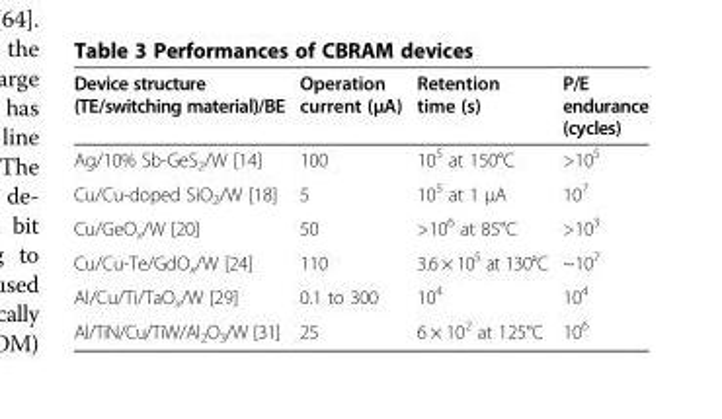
<table><thead><tr><td>Device structure (TE/switching material)/BE</td><td>Operation current (μA)</td><td>Retention time (s)</td><td>P/E endurance (cycles)</td></tr></thead><tbody><tr><td>Ag/10% Sb-GeS<sub>2</sub>/W [14]</td><td>100</td><td>10<sup>5</sup> at 150°C</td><td>&gt;10<sup>5</sup></td></tr><tr><td>Cu/Cu-doped SiO<sub>2</sub>/W [18]</td><td>5</td><td>10<sup>5</sup> at 1 μA</td><td>10<sup>7</sup></td></tr><tr><td>Cu/GeO<sub>x</sub>/W [20]</td><td>50</td><td>&gt;10<sup>6</sup> at 85°C</td><td>&gt;10<sup>3</sup></td></tr><tr><td>Cu/Cu-Te/GdO<sub>x</sub>/W [24]</td><td>110</td><td>3.6 × 10<sup>5</sup> at 130°C</td><td>~10<sup>7</sup></td></tr><tr><td>Al/Cu/Ti/TaO<sub>x</sub>/W [29]</td><td>0.1 to 300</td><td>10<sup>4</sup></td><td>10<sup>4</sup></td></tr><tr><td>Al/TiN/Cu/TiW/Al<sub>2</sub>O<sub>3</sub>/W [31]</td><td>25</td><td>6 × 10<sup>2</sup> at 125°C</td><td>10<sup>6</sup></td></tr></tbody></table>